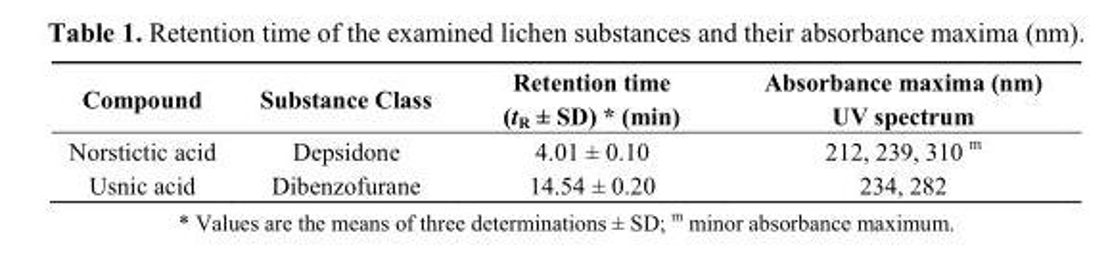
<table><thead><tr><td>Compound</td><td>Substance Class</td><td>Retention time (t<sub>R</sub> ± SD) * (min)</td><td>Absorbance maxima (nm) UV spectrum</td></tr></thead><tbody><tr><td>Norstictic acid</td><td>Depsidone</td><td>4.01 ± 0.10</td><td>212, 239, 310 m</td></tr><tr><td>Usnic acid</td><td>Dibenzofurane</td><td>14.54 ± 0.20</td><td>234, 282</td></tr></tbody></table>